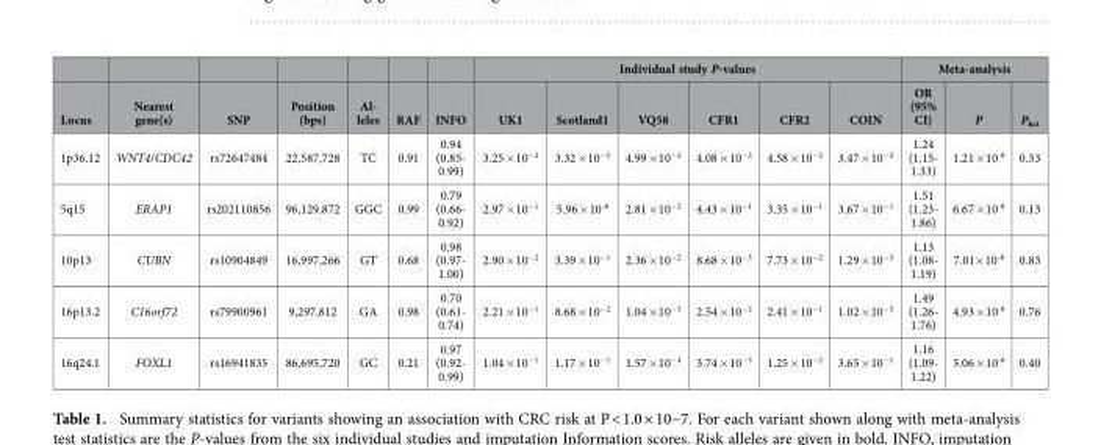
<table><thead><tr><td rowspan="2">Locus</td><td rowspan="2">Nearest gene(s)</td><td rowspan="2">SNP</td><td rowspan="2">Position (bps)</td><td rowspan="2">Al- leles</td><td rowspan="2">RAF</td><td rowspan="2">INFO</td><td colspan="6">Individual study P-values</td><td colspan="3">Meta-analysis</td></tr><tr><td>UK1</td><td>Scotland1</td><td>VQ58</td><td>CFR1</td><td>CFR2</td><td>COIN</td><td>OR (95% CI)</td><td>P</td><td>P<sub>het</sub></td></tr></thead><tbody><tr><td>1p36.12</td><td>WNT4/CDC42</td><td>rs72647484</td><td>22,587,728</td><td>TC</td><td>0.91</td><td>0.94 (0.85- 0.99)</td><td>3.25 × 10<sup>−2</sup></td><td>3.32 × 10<sup>−5</sup></td><td>4.99 × 10<sup>−2</sup></td><td>4.08 × 10<sup>−2</sup></td><td>4.58 × 10<sup>−2</sup></td><td>3.47 × 10<sup>−2</sup></td><td>1.24 (1.15- 1.33)</td><td>1.21 × 10<sup>-8</sup></td><td>0.33</td></tr><tr><td>5q15</td><td>ERAP1</td><td>rs202110856</td><td>96,129,872</td><td>GGC</td><td>0.99</td><td>0.79 (0.66- 0.92)</td><td>2.97 × 10<sup>−1</sup></td><td>5.96 × 10<sup>-8</sup></td><td>2.81 × 10<sup>−2</sup></td><td>4.43 × 10<sup>−1</sup></td><td>3.35 × 10<sup>−1</sup></td><td>3.67 × 10<sup>−1</sup></td><td>1.51 (1.23- 1.86)</td><td>6.67 × 10<sup>-8</sup></td><td>0.13</td></tr><tr><td>10p13</td><td>CUBN</td><td>rs10904849</td><td>16,997,266</td><td>GT</td><td>0.68</td><td>0.98 (0.97- 1.00)</td><td>2.90 × 10<sup>−2</sup></td><td>3.39 × 10<sup>−1</sup></td><td>2.36 × 10<sup>−2</sup></td><td>8.68 × 10<sup>−3</sup></td><td>7.73 × 10<sup>−2</sup></td><td>1.29 × 10<sup>−3</sup></td><td>1.13 (1.08- 1.19)</td><td>7.01× 10<sup>-8</sup></td><td>0.83</td></tr><tr><td>16p13.2</td><td>C16orf72</td><td>rs79900961</td><td>9,297,812</td><td>GA</td><td>0.98</td><td>0.70 (0.61- 0.74)</td><td>2.21 × 10<sup>−1</sup></td><td>8.68 × 10<sup>−2</sup></td><td>1.04 × 10<sup>−3</sup></td><td>2.54 × 10<sup>−2</sup></td><td>2.41 × 10<sup>−1</sup></td><td>1.02 × 10<sup>−3</sup></td><td>1.49 (1.26- 1.76)</td><td>4.93 × 10<sup>-8</sup></td><td>0.76</td></tr><tr><td>16q24.1</td><td>FOXL1</td><td>rs16941835</td><td>86,695,720</td><td>GC</td><td>0.21</td><td>0.97 (0.92- 0.99)</td><td>1.04 × 10<sup>−1</sup></td><td>1.17 × 10<sup>−1</sup></td><td>1.57 × 10<sup>−4</sup></td><td>3.74 × 10<sup>−3</sup></td><td>1.25 × 10<sup>−2</sup></td><td>3.65 × 10<sup>−1</sup></td><td>1.16 (1.09- 1.22)</td><td>5.06 × 10<sup>-8</sup></td><td>0.40</td></tr></tbody></table>